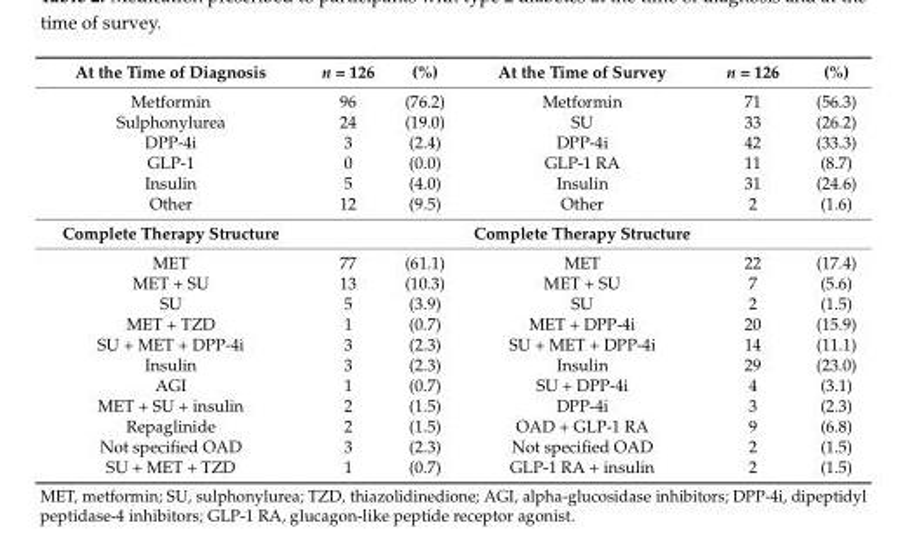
<table><thead><tr><td>At the Time of Diagnosis</td><td>n = 126</td><td>(%)</td><td>At the Time of Survey</td><td>n = 126</td><td>(%)</td></tr></thead><tbody><tr><td>Metformin</td><td>96</td><td>(76.2)</td><td>Metformin</td><td>71</td><td>(56.3)</td></tr><tr><td>Sulphonylurea</td><td>24</td><td>(19.0)</td><td>SU</td><td>33</td><td>(26.2)</td></tr><tr><td>DPP-4i</td><td>3</td><td>(2.4)</td><td>DPP-4i</td><td>42</td><td>(33.3)</td></tr><tr><td>GLP-1</td><td>0</td><td>(0.0)</td><td>GLP-1 RA</td><td>11</td><td>(8.7)</td></tr><tr><td>Insulin</td><td>5</td><td>(4.0)</td><td>Insulin</td><td>31</td><td>(24.6)</td></tr><tr><td>Other</td><td>12</td><td>(9.5)</td><td>Other</td><td>2</td><td>(1.6)</td></tr><tr><td>Complete Therapy Structure</td><td></td><td></td><td>Complete Therapy Structure</td><td></td><td></td></tr><tr><td>MET</td><td>77</td><td>(61.1)</td><td>MET</td><td>22</td><td>(17.4)</td></tr><tr><td>MET + SU</td><td>13</td><td>(10.3)</td><td>MET + SU</td><td>7</td><td>(5.6)</td></tr><tr><td>SU</td><td>5</td><td>(3.9)</td><td>SU</td><td>2</td><td>(1.5)</td></tr><tr><td>MET + TZD</td><td>1</td><td>(0.7)</td><td>MET + DPP-4i</td><td>20</td><td>(15.9)</td></tr><tr><td>SU + MET + DPP-4i</td><td>3</td><td>(2.3)</td><td>SU + MET + DPP-4i</td><td>14</td><td>(11.1)</td></tr><tr><td>Insulin</td><td>3</td><td>(2.3)</td><td>Insulin</td><td>29</td><td>(23.0)</td></tr><tr><td>AGI</td><td>1</td><td>(0.7)</td><td>SU + DPP-4i</td><td>4</td><td>(3.1)</td></tr><tr><td>MET + SU + insulin</td><td>2</td><td>(1.5)</td><td>DPP-4i</td><td>3</td><td>(2.3)</td></tr><tr><td>Repaglinide</td><td>2</td><td>(1.5)</td><td>OAD + GLP-1 RA</td><td>9</td><td>(6.8)</td></tr><tr><td>Not specified OAD</td><td>3</td><td>(2.3)</td><td>Not specified OAD</td><td>2</td><td>(1.5)</td></tr><tr><td>SU + MET + TZD</td><td>1</td><td>(0.7)</td><td>GLP-1 RA + insulin</td><td>2</td><td>(1.5)</td></tr></tbody></table>